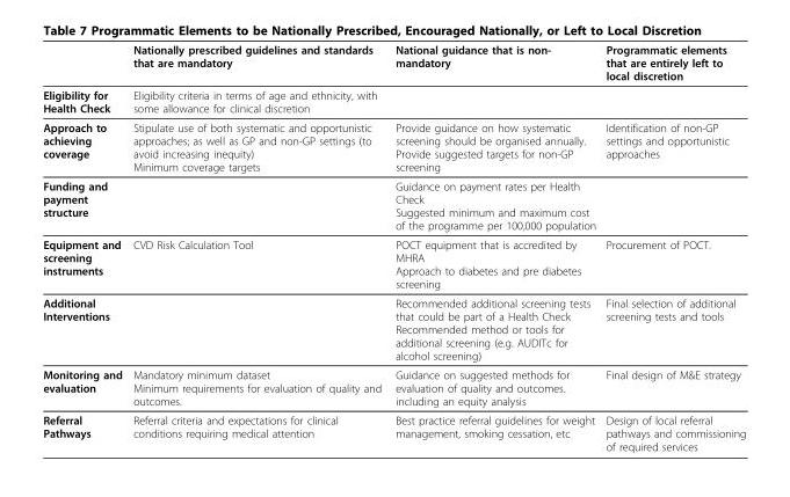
<table><thead><tr><td></td><td>Nationally prescribed guidelines and standards that are mandatory</td><td>National guidance that is non- mandatory</td><td>Programmatic elements that are entirely left to local discretion</td></tr></thead><tbody><tr><td>Eligibility for Health Check</td><td>Eligibility criteria in terms of age and ethnicity, with some allowance for clinical discretion</td><td></td><td></td></tr><tr><td>Approach to achieving coverage</td><td>Stipulate use of both systematic and opportunistic approaches; as well as GP and non-GP settings (to avoid increasing inequity) Minimum coverage targets</td><td>Provide guidance on how systematic screening should be organised annually. Provide suggested targets for non-GP screening</td><td>Identification of non-GP settings and opportunistic approaches</td></tr><tr><td>Funding and payment structure</td><td></td><td>Guidance on payment rates per Health Check Suggested minimum and maximum cost of the programme per 100,000 population</td><td></td></tr><tr><td>Equipment and screening instruments</td><td>CVD Risk Calculation Tool</td><td>POCT equipment that is accredited by MHRA Approach to diabetes and pre diabetes screening</td><td>Procurement of POCT.</td></tr><tr><td>Additional Interventions</td><td></td><td>Recommended additional screening tests that could be part of a Health Check Recommended method or tools for additional screening (e.g. AUDITc for alcohol screening)</td><td>Final selection of additional screening tests and tools</td></tr><tr><td>Monitoring and evaluation</td><td>Mandatory minimum dataset Minimum requirements for evaluation of quality and outcomes.</td><td>Guidance on suggested methods for evaluation of quality and outcomes. including an equity analysis</td><td>Final design of M&amp;E strategy</td></tr><tr><td>Referral Pathways</td><td>Referral criteria and expectations for clinical conditions requiring medical attention</td><td>Best practice referral guidelines for weight management, smoking cessation, etc</td><td>Design of local referral pathways and commissioning of required services</td></tr></tbody></table>